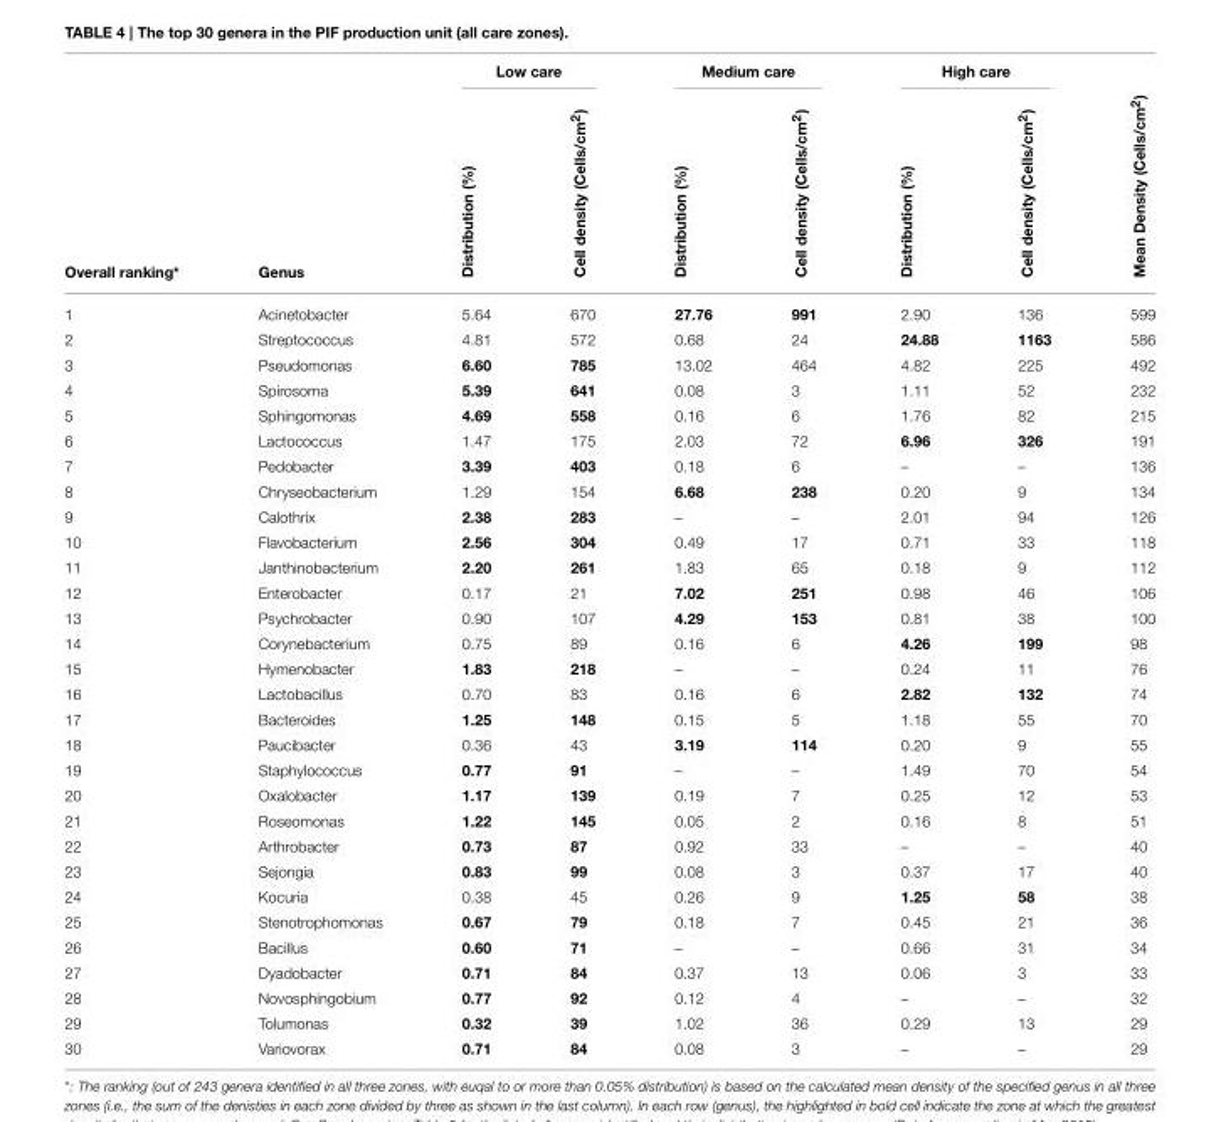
<table><thead><tr><td rowspan="2">Overall ranking*</td><td rowspan="2">Genus</td><td colspan="2">Low care</td><td colspan="2">Medium care</td><td colspan="2">High care</td><td rowspan="2">Mean Density (Cells/cm<sup>2</sup>)</td></tr><tr><td>Distribution (%)</td><td>Cell density (Cells/cm<sup>2</sup>)</td><td>Distribution (%)</td><td>Cell density (Cells/cm<sup>2</sup>)</td><td>Distribution (%)</td><td>Cell density (Cells/cm<sup>2</sup>)</td></tr></thead><tbody><tr><td>1</td><td>Acinetobacter</td><td>5.64</td><td>670</td><td>27.76</td><td>991</td><td>2.90</td><td>136</td><td>599</td></tr><tr><td>2</td><td>Streptococcus</td><td>4.81</td><td>572</td><td>0.68</td><td>24</td><td>24.88</td><td>1163</td><td>586</td></tr><tr><td>3</td><td>Pseudomonas</td><td>6.60</td><td>785</td><td>13.02</td><td>464</td><td>4.82</td><td>225</td><td>492</td></tr><tr><td>4</td><td>Spirosoma</td><td>5.39</td><td>641</td><td>0.08</td><td>3</td><td>1.11</td><td>52</td><td>232</td></tr><tr><td>5</td><td>Sphingomonas</td><td>4.69</td><td>558</td><td>0.16</td><td>6</td><td>1.76</td><td>82</td><td>215</td></tr><tr><td>6</td><td>Lactococcus</td><td>1.47</td><td>175</td><td>2.03</td><td>72</td><td>6.96</td><td>326</td><td>191</td></tr><tr><td>7</td><td>Pedobacter</td><td>3.39</td><td>403</td><td>0.18</td><td>6</td><td>–</td><td>–</td><td>136</td></tr><tr><td>8</td><td>Chryseobacterium</td><td>1.29</td><td>154</td><td>6.68</td><td>238</td><td>0.20</td><td>9</td><td>134</td></tr><tr><td>9</td><td>Calothrix</td><td>2.38</td><td>283</td><td>–</td><td>–</td><td>2.01</td><td>94</td><td>126</td></tr><tr><td>10</td><td>Flavobacterium</td><td>2.56</td><td>304</td><td>0.49</td><td>17</td><td>0.71</td><td>33</td><td>118</td></tr><tr><td>11</td><td>Janthinobacterium</td><td>2.20</td><td>261</td><td>1.83</td><td>65</td><td>0.18</td><td>9</td><td>112</td></tr><tr><td>12</td><td>Enterobacter</td><td>0.17</td><td>21</td><td>7.02</td><td>251</td><td>0.98</td><td>46</td><td>106</td></tr><tr><td>13</td><td>Psychrobacter</td><td>0.90</td><td>107</td><td>4.29</td><td>153</td><td>0.81</td><td>38</td><td>100</td></tr><tr><td>14</td><td>Corynebacterium</td><td>0.75</td><td>89</td><td>0.16</td><td>6</td><td>4.26</td><td>199</td><td>98</td></tr><tr><td>15</td><td>Hymenobacter</td><td>1.83</td><td>218</td><td>–</td><td>–</td><td>0.24</td><td>11</td><td>76</td></tr><tr><td>16</td><td>Lactobacillus</td><td>0.70</td><td>83</td><td>0.16</td><td>6</td><td>2.82</td><td>132</td><td>74</td></tr><tr><td>17</td><td>Bacteroides</td><td>1.25</td><td>148</td><td>0.15</td><td>5</td><td>1.18</td><td>55</td><td>70</td></tr><tr><td>18</td><td>Paucibacter</td><td>0.36</td><td>43</td><td>3.19</td><td>114</td><td>0.20</td><td>9</td><td>55</td></tr><tr><td>19</td><td>Staphylococcus</td><td>0.77</td><td>91</td><td>–</td><td>–</td><td>1.49</td><td>70</td><td>54</td></tr><tr><td>20</td><td>Oxalobacter</td><td>1.17</td><td>139</td><td>0.19</td><td>7</td><td>0.25</td><td>12</td><td>53</td></tr><tr><td>21</td><td>Roseomonas</td><td>1.22</td><td>145</td><td>0.05</td><td>2</td><td>0.16</td><td>8</td><td>51</td></tr><tr><td>22</td><td>Arthrobacter</td><td>0.73</td><td>87</td><td>0.92</td><td>33</td><td>–</td><td>–</td><td>40</td></tr><tr><td>23</td><td>Sejongia</td><td>0.83</td><td>99</td><td>0.08</td><td>3</td><td>0.37</td><td>17</td><td>40</td></tr><tr><td>24</td><td>Kocuria</td><td>0.38</td><td>45</td><td>0.26</td><td>9</td><td>1.25</td><td>58</td><td>38</td></tr><tr><td>25</td><td>Stenotrophomonas</td><td>0.67</td><td>79</td><td>0.18</td><td>7</td><td>0.45</td><td>21</td><td>36</td></tr><tr><td>26</td><td>Bacillus</td><td>0.60</td><td>71</td><td>–</td><td>–</td><td>0.66</td><td>31</td><td>34</td></tr><tr><td>27</td><td>Dyadobacter</td><td>0.71</td><td>84</td><td>0.37</td><td>13</td><td>0.06</td><td>3</td><td>33</td></tr><tr><td>28</td><td>Novosphingobium</td><td>0.77</td><td>92</td><td>0.12</td><td>4</td><td>–</td><td>–</td><td>32</td></tr><tr><td>29</td><td>Tolumonas</td><td>0.32</td><td>39</td><td>1.02</td><td>36</td><td>0.29</td><td>13</td><td>29</td></tr><tr><td>30</td><td>Variovorax</td><td>0.71</td><td>84</td><td>0.08</td><td>3</td><td>–</td><td>–</td><td>29</td></tr></tbody></table>